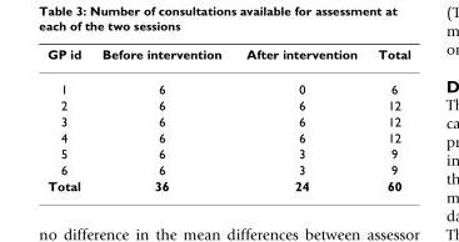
<table><thead><tr><td>GP id</td><td>Before intervention</td><td>After intervention</td><td>Total</td></tr></thead><tbody><tr><td>1</td><td>6</td><td>0</td><td>6</td></tr><tr><td>2</td><td>6</td><td>6</td><td>12</td></tr><tr><td>3</td><td>6</td><td>6</td><td>12</td></tr><tr><td>4</td><td>6</td><td>6</td><td>12</td></tr><tr><td>5</td><td>6</td><td>3</td><td>9</td></tr><tr><td>6</td><td>6</td><td>3</td><td>9</td></tr><tr><td>Total</td><td>36</td><td>24</td><td>60</td></tr></tbody></table>